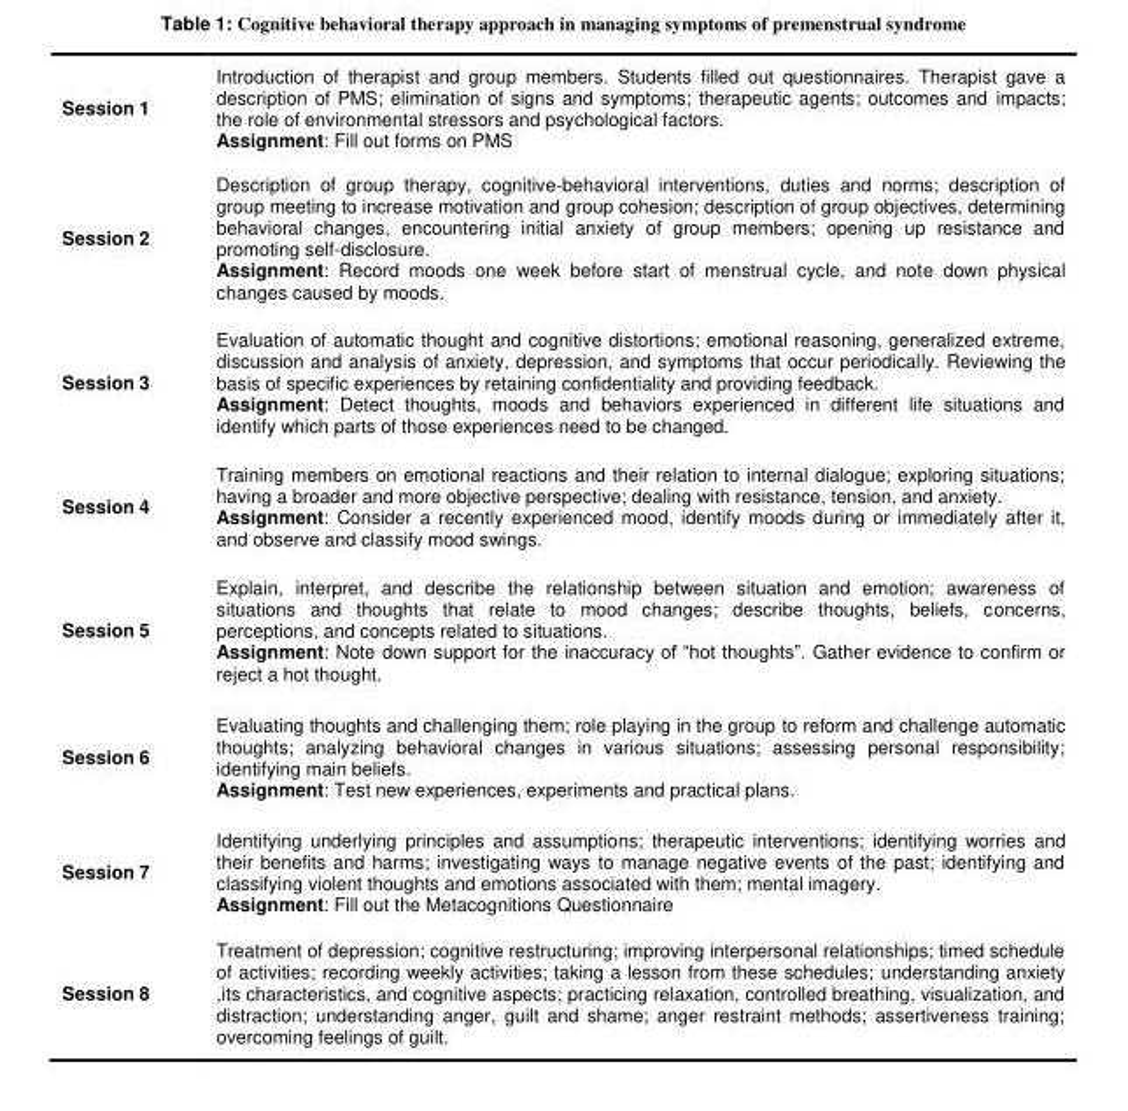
<table><tbody><tr><td>Session 1</td><td>Introduction of therapist and group members. Students filled out questionnaires. Therapist gave a description of PMS; elimination of signs and symptoms; therapeutic agents; outcomes and impacts; the role of environmental stressors and psychological factors. Assignment: Fill out forms on PMS</td></tr><tr><td>Session 2</td><td>Description of group therapy, cognitive-behavioral interventions, duties and norms; description of group meeting to increase motivation and group cohesion; description of group objectives, determining behavioral changes, encountering initial anxiety of group members; opening up resistance and promoting self-disclosure. Assignment: Record moods one week before start of menstrual cycle, and note down physical changes caused by moods.</td></tr><tr><td>Session 3</td><td>Evaluation of automatic thought and cognitive distortions; emotional reasoning, generalized extreme, discussion and analysis of anxiety, depression, and symptoms that occur periodically. Reviewing the basis of specific experiences by retaining confidentiality and providing feedback. Assignment: Detect thoughts, moods and behaviors experienced in different life situations and identify which parts of those experiences need to be changed.</td></tr><tr><td>Session 4</td><td>Training members on emotional reactions and their relation to internal dialogue; exploring situations; having a broader and more objective perspective; dealing with resistance, tension, and anxiety. Assignment: Consider a recently experienced mood, identify moods during or immediately after it, and observe and classify mood swings.</td></tr><tr><td>Session 5</td><td>Explain, interpret, and describe the relationship between situation and emotion; awareness of situations and thoughts that relate to mood changes; describe thoughts, beliefs, concerns, perceptions, and concepts related to situations. Assignment: Note down support for the inaccuracy‎of‎“hot‎thoughts”.‎Gather evidence to confirm or reject a hot thought.</td></tr><tr><td>Session 6</td><td>Evaluating thoughts and challenging them; role playing in the group to reform and challenge automatic thoughts; analyzing behavioral changes in various situations; assessing personal responsibility; identifying main beliefs. Assignment: Test new experiences, experiments and practical plans.</td></tr><tr><td>Session 7</td><td>Identifying underlying principles and assumptions; therapeutic interventions; identifying worries and their benefits and harms; investigating ways to manage negative events of the past; identifying and classifying violent thoughts and emotions associated with them; mental imagery. Assignment: Fill out the Metacognitions Questionnaire</td></tr><tr><td>Session 8</td><td>Treatment of depression; cognitive restructuring; improving interpersonal relationships; timed schedule of activities; recording weekly activities; taking a lesson from these schedules; understanding anxiety ,its characteristics, and cognitive aspects; practicing relaxation, controlled breathing, visualization, and distraction; understanding anger, guilt and shame; anger restraint methods; assertiveness training; overcoming feelings of guilt.</td></tr></tbody></table>